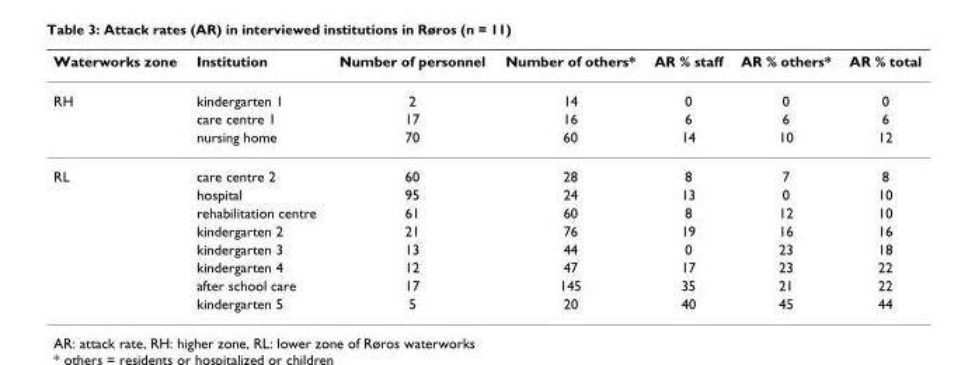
<table><thead><tr><td>Waterworks zone</td><td>Institution</td><td>Number of personnel</td><td>Number of others*</td><td>AR % staff</td><td>AR % others*</td><td>AR % total</td></tr></thead><tbody><tr><td rowspan="3">RH</td><td>kindergarten 1</td><td>2</td><td>14</td><td>0</td><td>0</td><td>0</td></tr><tr><td>care centre 1</td><td>17</td><td>16</td><td>6</td><td>6</td><td>6</td></tr><tr><td>nursing home</td><td>70</td><td>60</td><td>14</td><td>10</td><td>12</td></tr><tr><td rowspan="8">RL</td><td>care centre 2</td><td>60</td><td>28</td><td>8</td><td>7</td><td>8</td></tr><tr><td>hospital</td><td>95</td><td>24</td><td>13</td><td>0</td><td>10</td></tr><tr><td>rehabilitation centre</td><td>61</td><td>60</td><td>8</td><td>12</td><td>10</td></tr><tr><td>kindergarten 2</td><td>21</td><td>76</td><td>19</td><td>16</td><td>16</td></tr><tr><td>kindergarten 3</td><td>13</td><td>44</td><td>0</td><td>23</td><td>18</td></tr><tr><td>kindergarten 4</td><td>12</td><td>47</td><td>17</td><td>23</td><td>22</td></tr><tr><td>after school care</td><td>17</td><td>145</td><td>35</td><td>21</td><td>22</td></tr><tr><td>kindergarten 5</td><td>5</td><td>20</td><td>40</td><td>45</td><td>44</td></tr></tbody></table>